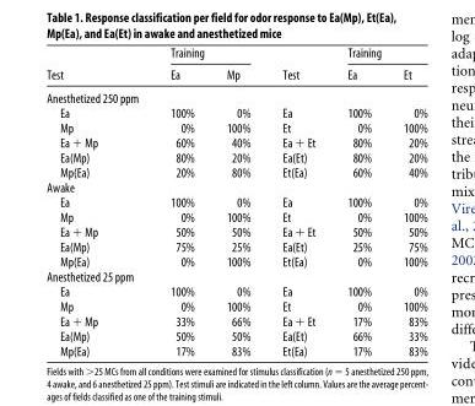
<table><thead><tr><td rowspan="2">Test</td><td colspan="2">Training</td><td rowspan="2">Test</td><td colspan="2">Training</td></tr><tr><td>Ea</td><td>Mp</td><td>Ea</td><td>Et</td></tr></thead><tbody><tr><td colspan="6">Anesthetized 250 ppm</td></tr><tr><td>Ea</td><td>100%</td><td>0%</td><td>Ea</td><td>100%</td><td>0%</td></tr><tr><td>Mp</td><td>0%</td><td>100%</td><td>Et</td><td>0%</td><td>100%</td></tr><tr><td>Ea + Mp</td><td>60%</td><td>40%</td><td>Ea + Et</td><td>80%</td><td>20%</td></tr><tr><td>Ea(Mp)</td><td>80%</td><td>20%</td><td>Ea(Et)</td><td>80%</td><td>20%</td></tr><tr><td>Mp(Ea)</td><td>20%</td><td>80%</td><td>Et(Ea)</td><td>60%</td><td>40%</td></tr><tr><td colspan="6">Awake</td></tr><tr><td>Ea</td><td>100%</td><td>0%</td><td>Ea</td><td>100%</td><td>0%</td></tr><tr><td>Mp</td><td>0%</td><td>100%</td><td>Et</td><td>0%</td><td>100%</td></tr><tr><td>Ea + Mp</td><td>50%</td><td>50%</td><td>Ea + Et</td><td>50%</td><td>50%</td></tr><tr><td>Ea(Mp)</td><td>75%</td><td>25%</td><td>Ea(Et)</td><td>25%</td><td>75%</td></tr><tr><td>Mp(Ea)</td><td>0%</td><td>100%</td><td>Et(Ea)</td><td>0%</td><td>100%</td></tr><tr><td colspan="6">Anesthetized 25 ppm</td></tr><tr><td>Ea</td><td>100%</td><td>0%</td><td>Ea</td><td>100%</td><td>0%</td></tr><tr><td>Mp</td><td>0%</td><td>100%</td><td>Et</td><td>0%</td><td>100%</td></tr><tr><td>Ea + Mp</td><td>33%</td><td>66%</td><td>Ea + Et</td><td>17%</td><td>83%</td></tr><tr><td>Ea(Mp)</td><td>50%</td><td>50%</td><td>Ea(Et)</td><td>66%</td><td>33%</td></tr><tr><td>Mp(Ea)</td><td>17%</td><td>83%</td><td>Et(Ea)</td><td>17%</td><td>83%</td></tr></tbody></table>